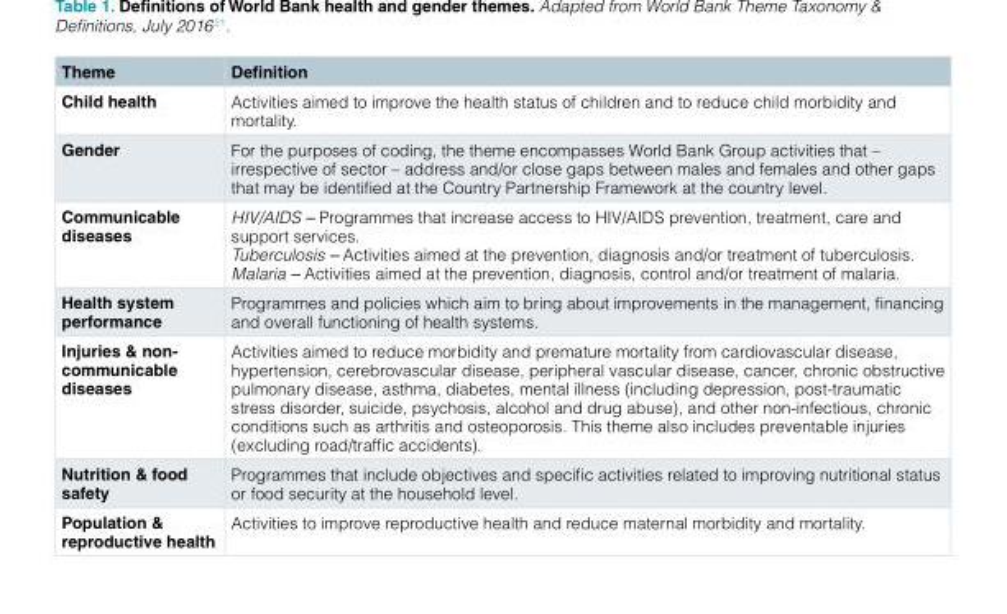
<table><thead><tr><td>Theme</td><td>Definition</td></tr></thead><tbody><tr><td>Child health</td><td>Activities aimed to improve the health status of children and to reduce child morbidity and mortality.</td></tr><tr><td>Gender</td><td>For the purposes of coding, the theme encompasses World Bank Group activities that – irrespective of sector – address and/or close gaps between males and females and other gaps that may be identified at the Country Partnership Framework at the country level.</td></tr><tr><td>Communicable diseases</td><td>HIV/AIDS – Programmes that increase access to HIV/AIDS prevention, treatment, care and support services. Tuberculosis – Activities aimed at the prevention, diagnosis and/or treatment of tuberculosis. Malaria – Activities aimed at the prevention, diagnosis, control and/or treatment of malaria.</td></tr><tr><td>Health system performance</td><td>Programmes and policies which aim to bring about improvements in the management, financing and overall functioning of health systems.</td></tr><tr><td>Injuries &amp; non- communicable diseases</td><td>Activities aimed to reduce morbidity and premature mortality from cardiovascular disease, hypertension, cerebrovascular disease, peripheral vascular disease, cancer, chronic obstructive pulmonary disease, asthma, diabetes, mental illness (including depression, post-traumatic stress disorder, suicide, psychosis, alcohol and drug abuse), and other non-infectious, chronic conditions such as arthritis and osteoporosis. This theme also includes preventable injuries (excluding road/traffic accidents).</td></tr><tr><td>Nutrition &amp; food safety</td><td>Programmes that include objectives and specific activities related to improving nutritional status or food security at the household level.</td></tr><tr><td>Population &amp; reproductive health</td><td>Activities to improve reproductive health and reduce maternal morbidity and mortality.</td></tr></tbody></table>